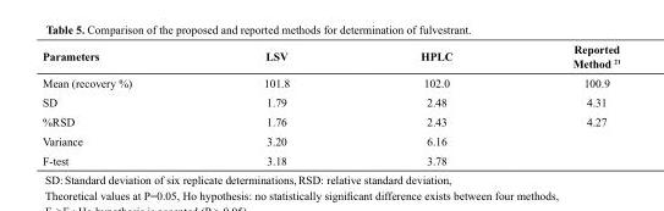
<table><thead><tr><td>Parameters</td><td>LSV</td><td>HPLC</td><td>Reported Method <sup>21</sup></td></tr></thead><tbody><tr><td>Mean (recovery %)</td><td>101.8</td><td>102.0</td><td>100.9</td></tr><tr><td>SD</td><td>1.79</td><td>2.48</td><td>4.31</td></tr><tr><td>%RSD</td><td>1.76</td><td>2.43</td><td>4.27</td></tr><tr><td>Variance</td><td>3.20</td><td>6.16</td><td></td></tr><tr><td>F-test</td><td>3.18</td><td>3.78</td><td></td></tr></tbody></table>